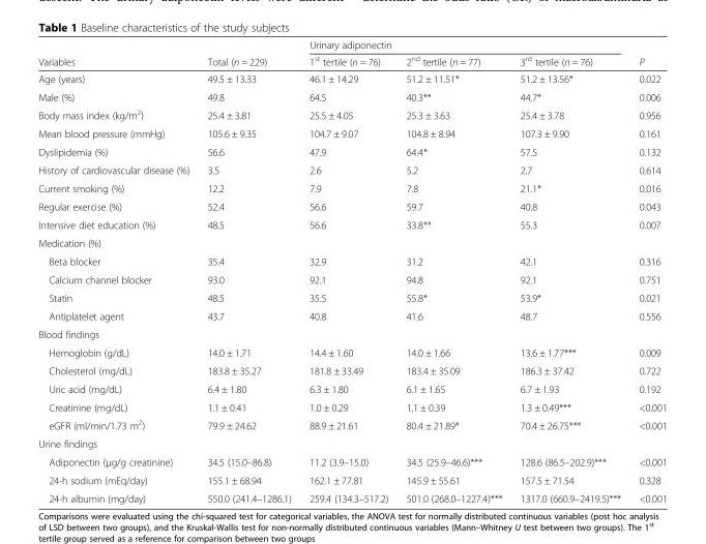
<table><thead><tr><td rowspan="2">Variables</td><td rowspan="2">Total (n = 229)</td><td colspan="3">Urinary adiponectin</td><td rowspan="2">P</td></tr><tr><td>1<sup>st</sup> tertile (n = 76)</td><td>2<sup>nd</sup> tertile (n = 77)</td><td>3<sup>rd</sup> tertile (n = 76)</td></tr></thead><tbody><tr><td>Age (years)</td><td>49.5 ± 13.33</td><td>46.1 ± 14.29</td><td>51.2 ± 11.51*</td><td>51.2 ± 13.56*</td><td>0.022</td></tr><tr><td>Male (%)</td><td>49.8</td><td>64.5</td><td>40.3**</td><td>44.7*</td><td>0.006</td></tr><tr><td>Body mass index (kg/m<sup>2</sup>)</td><td>25.4 ± 3.81</td><td>25.5 ± 4.05</td><td>25.3 ± 3.63</td><td>25.4 ± 3.78</td><td>0.956</td></tr><tr><td>Mean blood pressure (mmHg)</td><td>105.6 ± 9.35</td><td>104.7 ± 9.07</td><td>104.8 ± 8.94</td><td>107.3 ± 9.90</td><td>0.161</td></tr><tr><td>Dyslipidemia (%)</td><td>56.6</td><td>47.9</td><td>64.4*</td><td>57.5</td><td>0.132</td></tr><tr><td>History of cardiovascular disease (%)</td><td>3.5</td><td>2.6</td><td>5.2</td><td>2.7</td><td>0.614</td></tr><tr><td>Current smoking (%)</td><td>12.2</td><td>7.9</td><td>7.8</td><td>21.1*</td><td>0.016</td></tr><tr><td>Regular exercise (%)</td><td>52.4</td><td>56.6</td><td>59.7</td><td>40.8</td><td>0.043</td></tr><tr><td>Intensive diet education (%)</td><td>48.5</td><td>56.6</td><td>33.8**</td><td>55.3</td><td>0.007</td></tr><tr><td colspan="6">Medication (%)</td></tr><tr><td>Beta blocker</td><td>35.4</td><td>32.9</td><td>31.2</td><td>42.1</td><td>0.316</td></tr><tr><td>Calcium channel blocker</td><td>93.0</td><td>92.1</td><td>94.8</td><td>92.1</td><td>0.751</td></tr><tr><td>Statin</td><td>48.5</td><td>35.5</td><td>55.8*</td><td>53.9*</td><td>0.021</td></tr><tr><td>Antiplatelet agent</td><td>43.7</td><td>40.8</td><td>41.6</td><td>48.7</td><td>0.556</td></tr><tr><td colspan="6">Blood findings</td></tr><tr><td>Hemoglobin (g/dL)</td><td>14.0 ± 1.71</td><td>14.4 ± 1.60</td><td>14.0 ± 1.66</td><td>13.6 ± 1.77***</td><td>0.009</td></tr><tr><td>Cholesterol (mg/dL)</td><td>183.8 ± 35.27</td><td>181.8 ± 33.49</td><td>183.4 ± 35.09</td><td>186.3 ± 37.42</td><td>0.722</td></tr><tr><td>Uric acid (mg/dL)</td><td>6.4 ± 1.80</td><td>6.3 ± 1.80</td><td>6.1 ± 1.65</td><td>6.7 ± 1.93</td><td>0.192</td></tr><tr><td>Creatinine (mg/dL)</td><td>1.1 ± 0.41</td><td>1.0 ± 0.29</td><td>1.1 ± 0.39</td><td>1.3 ± 0.49***</td><td>&lt;0.001</td></tr><tr><td>eGFR (ml/min/1.73 m<sup>2</sup>)</td><td>79.9 ± 24.62</td><td>88.9 ± 21.61</td><td>80.4 ± 21.89*</td><td>70.4 ± 26.75***</td><td>&lt;0.001</td></tr><tr><td colspan="6">Urine findings</td></tr><tr><td>Adiponectin (μg/g creatinine)</td><td>34.5 (15.0–86.8)</td><td>11.2 (3.9–15.0)</td><td>34.5 (25.9–46.6)***</td><td>128.6 (86.5–202.9)***</td><td>&lt;0.001</td></tr><tr><td>24-h sodium (mEq/day)</td><td>155.1 ± 68.94</td><td>162.1 ± 77.81</td><td>145.9 ± 55.61</td><td>157.5 ± 71.54</td><td>0.328</td></tr><tr><td>24-h albumin (mg/day)</td><td>550.0 (241.4–1286.1)</td><td>259.4 (134.3–517.2)</td><td>501.0 (268.0–1227.4)***</td><td>1317.0 (660.9–2419.5)***</td><td>&lt;0.001</td></tr></tbody></table>